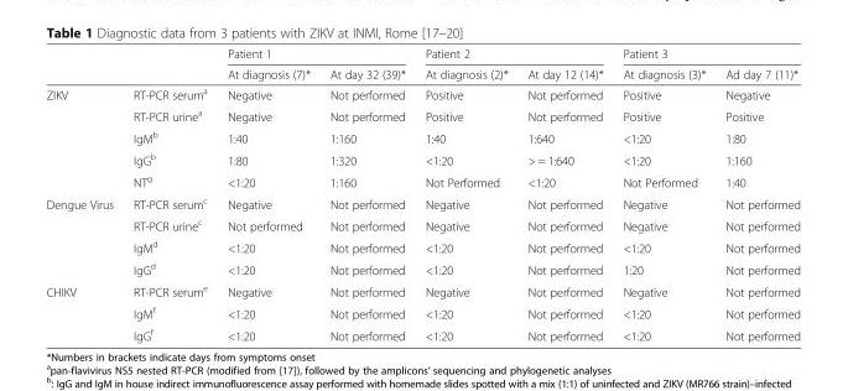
<table><thead><tr><td rowspan="2"></td><td rowspan="2"></td><td colspan="2">Patient 1</td><td colspan="2">Patient 2</td><td colspan="2">Patient 3</td></tr><tr><td>At diagnosis (7)*</td><td>At day 32 (39)*</td><td>At diagnosis (2)*</td><td>At day 12 (14)*</td><td>At diagnosis (3)*</td><td>Ad day 7 (11)*</td></tr></thead><tbody><tr><td rowspan="5">ZIKV</td><td>RT-PCR serum<sup>a</sup></td><td>Negative</td><td>Not performed</td><td>Positive</td><td>Not performed</td><td>Positive</td><td>Negative</td></tr><tr><td>RT-PCR urine<sup>a</sup></td><td>Negative</td><td>Not performed</td><td>Positive</td><td>Not performed</td><td>Positive</td><td>Positive</td></tr><tr><td>IgM<sup>b</sup></td><td>1:40</td><td>1:160</td><td>1:40</td><td>1:640</td><td>&lt;1:20</td><td>1:80</td></tr><tr><td>IgG<sup>b</sup></td><td>1:80</td><td>1:320</td><td>&lt;1:20</td><td>&gt; = 1:640</td><td>&lt;1:20</td><td>1:160</td></tr><tr><td>NT<sup>g</sup></td><td>&lt;1:20</td><td>1:160</td><td>Not Performed</td><td>&lt;1:20</td><td>Not Performed</td><td>1:40</td></tr><tr><td rowspan="4">Dengue Virus</td><td>RT-PCR serum<sup>c</sup></td><td>Negative</td><td>Not performed</td><td>Negative</td><td>Not performed</td><td>Negative</td><td>Not performed</td></tr><tr><td>RT-PCR urine<sup>c</sup></td><td>Not performed</td><td>Not performed</td><td>Negative</td><td>Not performed</td><td>Negative</td><td>Not performed</td></tr><tr><td>IgM<sup>d</sup></td><td>&lt;1:20</td><td>Not performed</td><td>&lt;1:20</td><td>Not performed</td><td>&lt;1:20</td><td>Not performed</td></tr><tr><td>IgG<sup>d</sup></td><td>&lt;1:20</td><td>Not performed</td><td>&lt;1:20</td><td>Not performed</td><td>1:20</td><td>Not performed</td></tr><tr><td rowspan="3">CHIKV</td><td>RT-PCR serum<sup>e</sup></td><td>Negative</td><td>Not performed</td><td>Negative</td><td>Not performed</td><td>Negative</td><td>Not performed</td></tr><tr><td>IgM<sup>f</sup></td><td>&lt;1:20</td><td>Not performed</td><td>&lt;1:20</td><td>Not performed</td><td>&lt;1:20</td><td>Not performed</td></tr><tr><td>IgG<sup>f</sup></td><td>&lt;1:20</td><td>Not performed</td><td>&lt;1:20</td><td>Not performed</td><td>&lt;1:20</td><td>Not performed</td></tr></tbody></table>